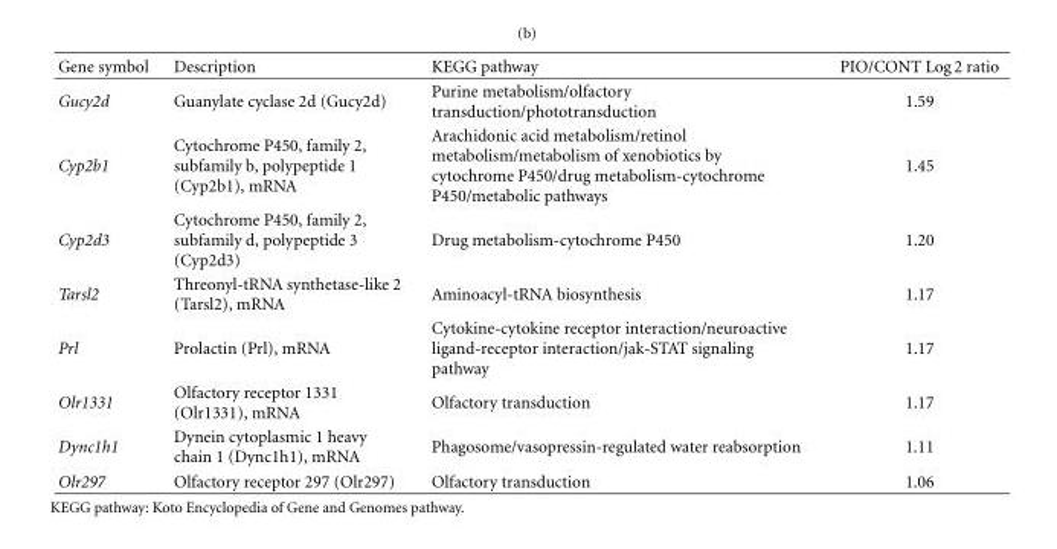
<table><thead><tr><td>Gene symbol</td><td>Description</td><td>KEGG pathway</td><td>PIO/CONT Log 2 ratio</td></tr></thead><tbody><tr><td>Gucy2d</td><td>Guanylate cyclase 2d (Gucy2d)</td><td>Purine metabolism/olfactory transduction/phototransduction</td><td>1.59</td></tr><tr><td>Cyp2b1</td><td>Cytochrome P450, family 2, subfamily b, polypeptide 1 (Cyp2b1), mRNA</td><td>Arachidonic acid metabolism/retinol metabolism/metabolism of xenobiotics by cytochrome P450/drug metabolism-cytochrome P450/metabolic pathways</td><td>1.45</td></tr><tr><td>Cyp2d3</td><td>Cytochrome P450, family 2, subfamily d, polypeptide 3 (Cyp2d3)</td><td>Drug metabolism-cytochrome P450</td><td>1.20</td></tr><tr><td>Tarsl2</td><td>Threonyl-tRNA synthetase-like 2 (Tarsl2), mRNA</td><td>Aminoacyl-tRNA biosynthesis</td><td>1.17</td></tr><tr><td>Prl</td><td>Prolactin (Prl), mRNA</td><td>Cytokine-cytokine receptor interaction/neuroactive ligand-receptor interaction/jak-STAT signaling pathway</td><td>1.17</td></tr><tr><td>Olr1331</td><td>Olfactory receptor 1331 (Olr1331), mRNA</td><td>Olfactory transduction</td><td>1.17</td></tr><tr><td>Dync1h1</td><td>Dynein cytoplasmic 1 heavy chain 1 (Dync1h1), mRNA</td><td>Phagosome/vasopressin-regulated water reabsorption</td><td>1.11</td></tr><tr><td>Olr297</td><td>Olfactory receptor 297 (Olr297)</td><td>Olfactory transduction</td><td>1.06</td></tr></tbody></table>